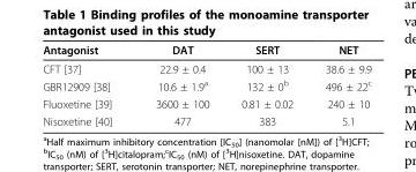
<table><thead><tr><td>Antagonist</td><td>DAT</td><td>SERT</td><td>NET</td></tr></thead><tbody><tr><td>CFT [37]</td><td>22.9 ± 0.4</td><td>100 ± 13</td><td>38.6 ± 9.9</td></tr><tr><td>GBR12909 [38]</td><td>10.6 ± 1.9<sup>a</sup></td><td>132 ± 0<sup>b</sup></td><td>496 ± 22<sup>c</sup></td></tr><tr><td>Fluoxetine [39]</td><td>3600 ± 100</td><td>0.81 ± 0.02</td><td>240 ± 10</td></tr><tr><td>Nisoxetine [40]</td><td>477</td><td>383</td><td>5.1</td></tr></tbody></table>